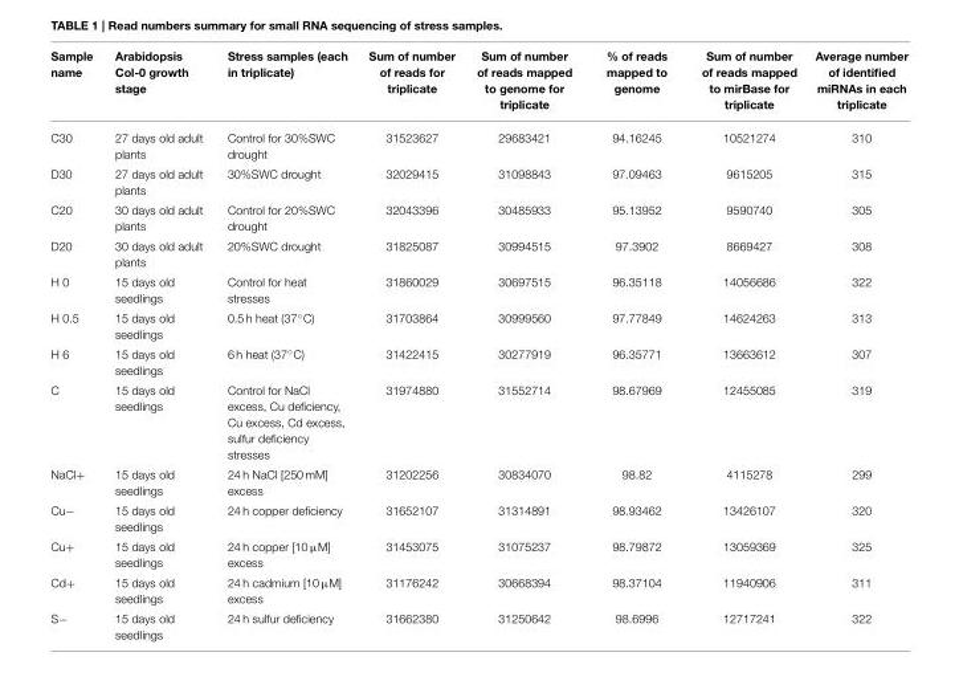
<table><thead><tr><td>Sample name</td><td>Arabidopsis Col-0 growth stage</td><td>Stress samples (each in triplicate)</td><td>Sum of number of reads for triplicate</td><td>Sum of number of reads mapped to genome for triplicate</td><td>% of reads mapped to genome</td><td>Sum of number of reads mapped to mirBase for triplicate</td><td>Average number of identified miRNAs in each triplicate</td></tr></thead><tbody><tr><td>C30</td><td>27 days old adult plants</td><td>Control for 30%SWC drought</td><td>31523627</td><td>29683421</td><td>94.16245</td><td>10521274</td><td>310</td></tr><tr><td>D30</td><td>27 days old adult plants</td><td>30%SWC drought</td><td>32029415</td><td>31098843</td><td>97.09463</td><td>9615205</td><td>315</td></tr><tr><td>C20</td><td>30 days old adult plants</td><td>Control for 20%SWC drought</td><td>32043396</td><td>30485933</td><td>95.13952</td><td>9590740</td><td>305</td></tr><tr><td>D20</td><td>30 days old adult plants</td><td>20%SWC drought</td><td>31825087</td><td>30994515</td><td>97.3902</td><td>8669427</td><td>308</td></tr><tr><td>H 0</td><td>15 days old seedlings</td><td>Control for heat stresses</td><td>31860029</td><td>30697515</td><td>96.35118</td><td>14056686</td><td>322</td></tr><tr><td>H 0.5</td><td>15 days old seedlings</td><td>0.5 h heat (37◦C)</td><td>31703864</td><td>30999560</td><td>97.77849</td><td>14624263</td><td>313</td></tr><tr><td>H 6</td><td>15 days old seedlings</td><td>6 h heat (37◦C)</td><td>31422415</td><td>30277919</td><td>96.35771</td><td>13663612</td><td>307</td></tr><tr><td>C</td><td>15 days old seedlings</td><td>Control for NaCl excess, Cu deficiency, Cu excess, Cd excess, sulfur deficiency stresses</td><td>31974880</td><td>31552714</td><td>98.67969</td><td>12455085</td><td>319</td></tr><tr><td>NaCl+</td><td>15 days old seedlings</td><td>24 h NaCl [250 mM] excess</td><td>31202256</td><td>30834070</td><td>98.82</td><td>4115278</td><td>299</td></tr><tr><td>Cu−</td><td>15 days old seedlings</td><td>24 h copper deficiency</td><td>31652107</td><td>31314891</td><td>98.93462</td><td>13426107</td><td>320</td></tr><tr><td>Cu+</td><td>15 days old seedlings</td><td>24 h copper [10 µM] excess</td><td>31453075</td><td>31075237</td><td>98.79872</td><td>13059369</td><td>325</td></tr><tr><td>Cd+</td><td>15 days old seedlings</td><td>24 h cadmium [10 µM] excess</td><td>31176242</td><td>30668394</td><td>98.37104</td><td>11940906</td><td>311</td></tr><tr><td>S−</td><td>15 days old seedlings</td><td>24 h sulfur deficiency</td><td>31662380</td><td>31250642</td><td>98.6996</td><td>12717241</td><td>322</td></tr></tbody></table>